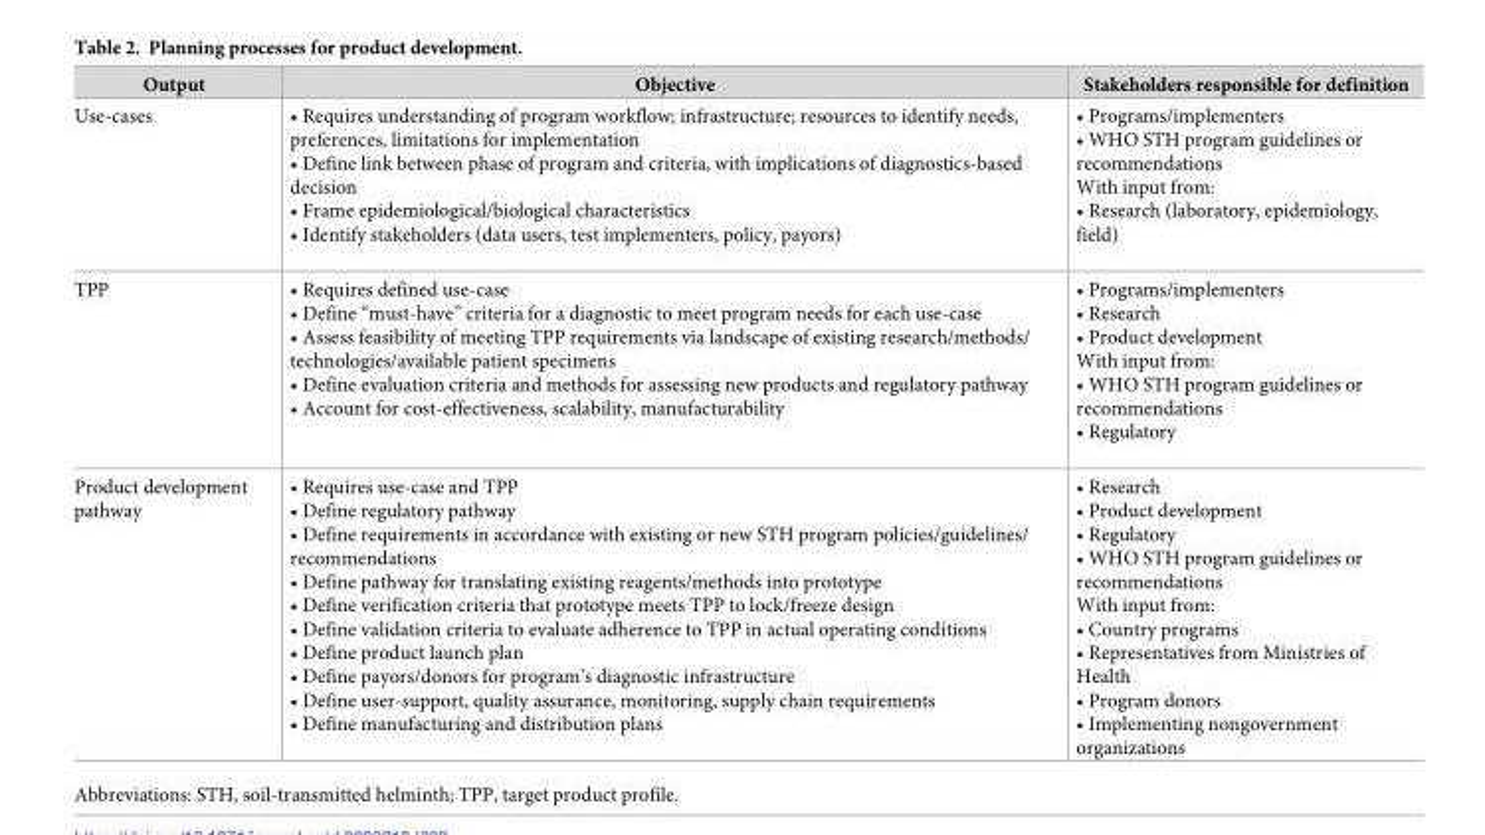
<table><thead><tr><td>Output</td><td>Objective</td><td>Stakeholders responsible for definition</td></tr></thead><tbody><tr><td>Use-cases</td><td>• Requires understanding of program workflow; infrastructure; resources to identify needs, preferences, limitations for implementation • Define link between phase of program and criteria, with implications of diagnostics-based decision • Frame epidemiological/biological characteristics • Identify stakeholders (data users, test implementers, policy, payors)</td><td>• Programs/implementers • WHO STH program guidelines or recommendations With input from: • Research (laboratory, epidemiology, field)</td></tr><tr><td>TPP</td><td>• Requires defined use-case • Define “must-have” criteria for a diagnostic to meet program needs for each use-case • Assess feasibility of meeting TPP requirements via landscape of existing research/methods/ technologies/available patient specimens • Define evaluation criteria and methods for assessing new products and regulatory pathway • Account for cost-effectiveness, scalability, manufacturability</td><td>• Programs/implementers • Research • Product development With input from: • WHO STH program guidelines or recommendations • Regulatory</td></tr><tr><td>Product development pathway</td><td>• Requires use-case and TPP • Define regulatory pathway • Define requirements in accordance with existing or new STH program policies/guidelines/ recommendations • Define pathway for translating existing reagents/methods into prototype • Define verification criteria that prototype meets TPP to lock/freeze design • Define validation criteria to evaluate adherence to TPP in actual operating conditions • Define product launch plan • Define payors/donors for program’s diagnostic infrastructure • Define user-support, quality assurance, monitoring, supply chain requirements • Define manufacturing and distribution plans</td><td>• Research • Product development • Regulatory • WHO STH program guidelines or recommendations With input from: • Country programs • Representatives from Ministries of Health • Program donors • Implementing nongovernment organizations</td></tr></tbody></table>